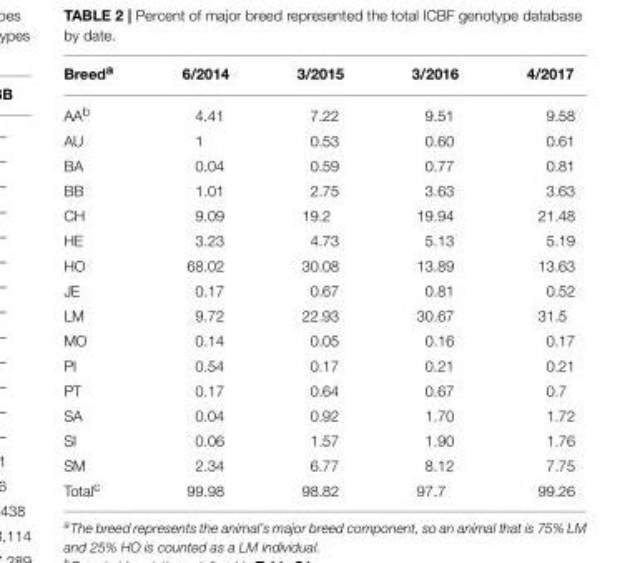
<table><thead><tr><td>Breed<sup>a</sup></td><td>6/2014</td><td>3/2015</td><td>3/2016</td><td>4/2017</td></tr></thead><tbody><tr><td>AA<sup>b</sup></td><td>4.41</td><td>7.22</td><td>9.51</td><td>9.58</td></tr><tr><td>AU</td><td>1</td><td>0.53</td><td>0.60</td><td>0.61</td></tr><tr><td>BA</td><td>0.04</td><td>0.59</td><td>0.77</td><td>0.81</td></tr><tr><td>BB</td><td>1.01</td><td>2.75</td><td>3.63</td><td>3.63</td></tr><tr><td>CH</td><td>9.09</td><td>19.2</td><td>19.94</td><td>21.48</td></tr><tr><td>HE</td><td>3.23</td><td>4.73</td><td>5.13</td><td>5.19</td></tr><tr><td>HO</td><td>68.02</td><td>30.08</td><td>13.89</td><td>13.63</td></tr><tr><td>JE</td><td>0.17</td><td>0.67</td><td>0.81</td><td>0.52</td></tr><tr><td>LM</td><td>9.72</td><td>22.93</td><td>30.67</td><td>31.5</td></tr><tr><td>MO</td><td>0.14</td><td>0.05</td><td>0.16</td><td>0.17</td></tr><tr><td>PI</td><td>0.54</td><td>0.17</td><td>0.21</td><td>0.21</td></tr><tr><td>PT</td><td>0.17</td><td>0.64</td><td>0.67</td><td>0.7</td></tr><tr><td>SA</td><td>0.04</td><td>0.92</td><td>1.70</td><td>1.72</td></tr><tr><td>SI</td><td>0.06</td><td>1.57</td><td>1.90</td><td>1.76</td></tr><tr><td>SM</td><td>2.34</td><td>6.77</td><td>8.12</td><td>7.75</td></tr><tr><td>Total<sup>c</sup></td><td>99.98</td><td>98.82</td><td>97.7</td><td>99.26</td></tr></tbody></table>